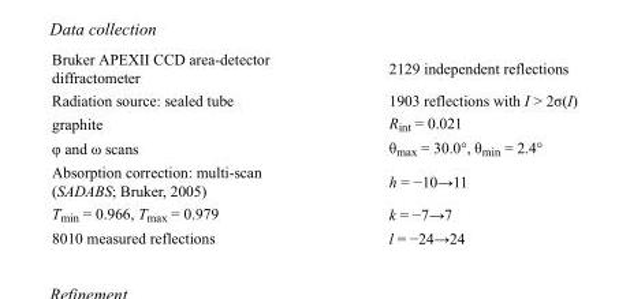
<table><tbody><tr><td>Bruker APEXII CCD area-detector diffractometer</td><td>2129 independent reflections</td></tr><tr><td>Radiation source: sealed tube</td><td>1903 reflections with I &gt; 2σ(I)</td></tr><tr><td>graphite</td><td>R<sub>int</sub> = 0.021</td></tr><tr><td>φ and ω scans</td><td>θ<sub>max</sub> = 30.0°, θ<sub>min</sub> = 2.4°</td></tr><tr><td>Absorption correction: multi-scan (SADABS; Bruker, 2005)</td><td>h = −10→11</td></tr><tr><td>T<sub>min</sub> = 0.966, T<sub>max</sub> = 0.979</td><td>k = −7→7</td></tr><tr><td>8010 measured reflections</td><td>l = −24→24</td></tr></tbody></table>